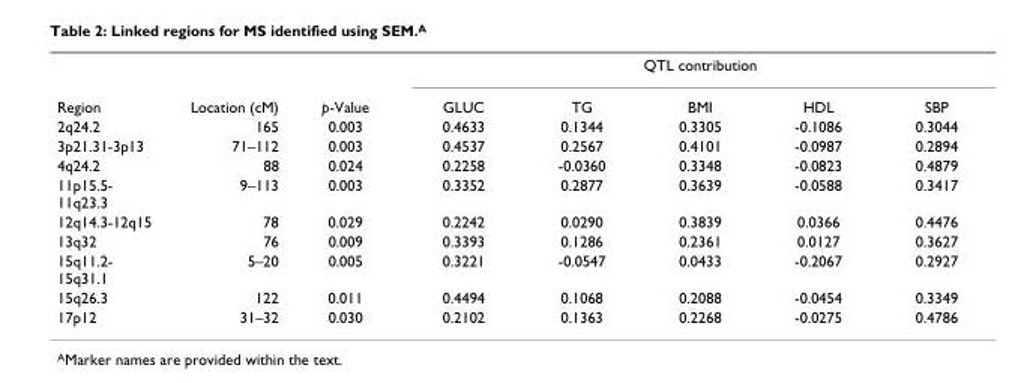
<table><thead><tr><td rowspan="2">Region</td><td rowspan="2">Location (cM)</td><td rowspan="2">p-Value</td><td colspan="5">QTL contribution</td></tr><tr><td>GLUC</td><td>TG</td><td>BMI</td><td>HDL</td><td>SBP</td></tr></thead><tbody><tr><td>2q24.2</td><td>165</td><td>0.003</td><td>0.4633</td><td>0.1344</td><td>0.3305</td><td>-0.1086</td><td>0.3044</td></tr><tr><td>3p21.31-3p13</td><td>71–112</td><td>0.003</td><td>0.4537</td><td>0.2567</td><td>0.4101</td><td>-0.0987</td><td>0.2894</td></tr><tr><td>4q24.2</td><td>88</td><td>0.024</td><td>0.2258</td><td>-0.0360</td><td>0.3348</td><td>-0.0823</td><td>0.4879</td></tr><tr><td>11p15.5- 11q23.3</td><td>9–113</td><td>0.003</td><td>0.3352</td><td>0.2877</td><td>0.3639</td><td>-0.0588</td><td>0.3417</td></tr><tr><td>12q14.3-12q15</td><td>78</td><td>0.029</td><td>0.2242</td><td>0.0290</td><td>0.3839</td><td>0.0366</td><td>0.4476</td></tr><tr><td>13q32</td><td>76</td><td>0.009</td><td>0.3393</td><td>0.1286</td><td>0.2361</td><td>0.0127</td><td>0.3627</td></tr><tr><td>15q11.2- 15q31.1</td><td>5–20</td><td>0.005</td><td>0.3221</td><td>-0.0547</td><td>0.0433</td><td>-0.2067</td><td>0.2927</td></tr><tr><td>15q26.3</td><td>122</td><td>0.011</td><td>0.4494</td><td>0.1068</td><td>0.2088</td><td>-0.0454</td><td>0.3349</td></tr><tr><td>17p12</td><td>31–32</td><td>0.030</td><td>0.2102</td><td>0.1363</td><td>0.2268</td><td>-0.0275</td><td>0.4786</td></tr></tbody></table>